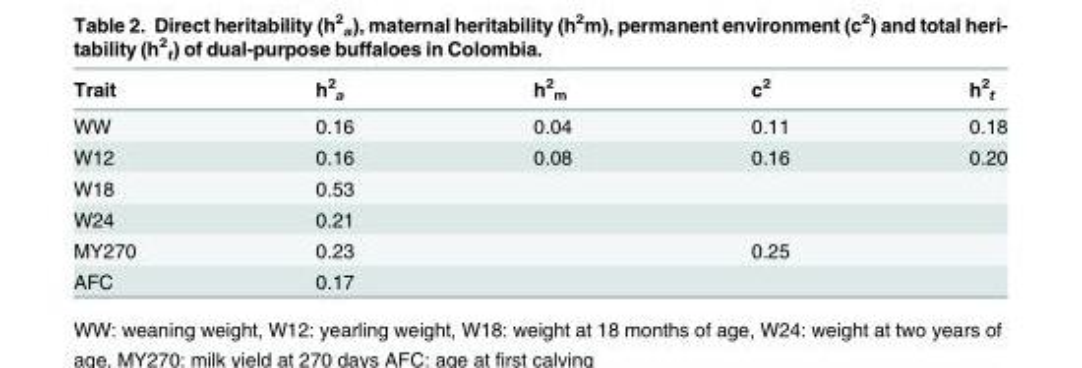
<table><thead><tr><td>Trait</td><td>h<sup>2</sup> <sub>a</sub></td><td>h<sup>2</sup> <sub>m</sub></td><td>c<sup>2</sup></td><td>h<sup>2</sup> <sub>t</sub></td></tr></thead><tbody><tr><td>WW</td><td>0.16</td><td>0.04</td><td>0.11</td><td>0.18</td></tr><tr><td>W12</td><td>0.16</td><td>0.08</td><td>0.16</td><td>0.20</td></tr><tr><td>W18</td><td>0.53</td><td></td><td></td><td></td></tr><tr><td>W24</td><td>0.21</td><td></td><td></td><td></td></tr><tr><td>MY270</td><td>0.23</td><td></td><td>0.25</td><td></td></tr><tr><td>AFC</td><td>0.17</td><td></td><td></td><td></td></tr></tbody></table>